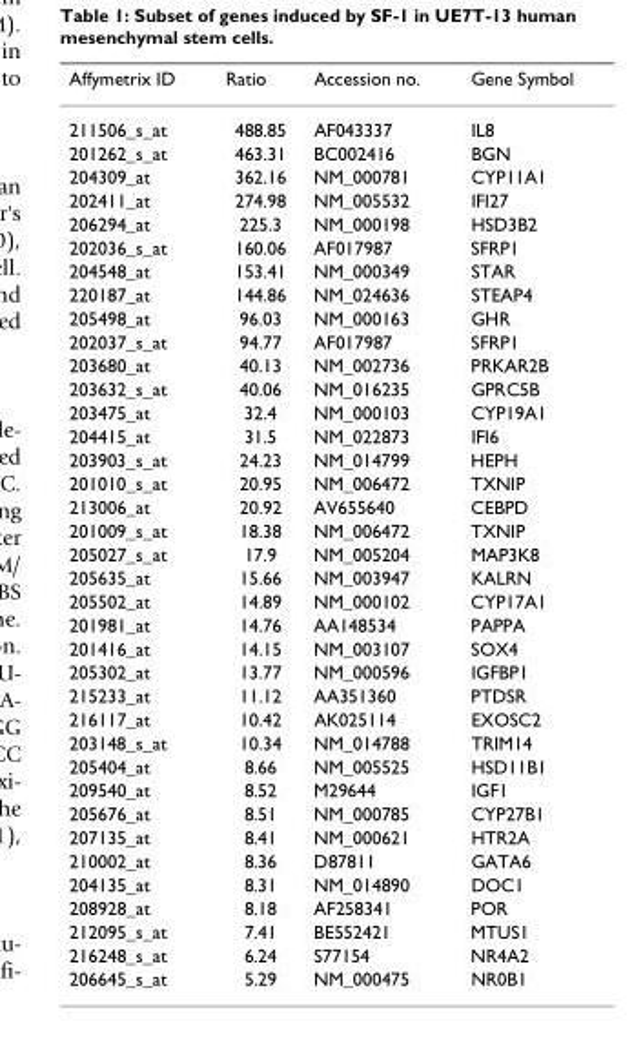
<table><thead><tr><td>Affymetrix ID</td><td>Ratio</td><td>Accession no.</td><td>Gene Symbol</td></tr></thead><tbody><tr><td>211506_s_at</td><td>488.85</td><td>AF043337</td><td>IL8</td></tr><tr><td>201262_s_at</td><td>463.31</td><td>BC002416</td><td>BGN</td></tr><tr><td>204309_at</td><td>362.16</td><td>NM_000781</td><td>CYP11A1</td></tr><tr><td>202411_at</td><td>274.98</td><td>NM_005532</td><td>IFI27</td></tr><tr><td>206294_at</td><td>225.3</td><td>NM_000198</td><td>HSD3B2</td></tr><tr><td>202036_s_at</td><td>160.06</td><td>AF017987</td><td>SFRP1</td></tr><tr><td>204548_at</td><td>153.41</td><td>NM_000349</td><td>STAR</td></tr><tr><td>220187_at</td><td>144.86</td><td>NM_024636</td><td>STEAP4</td></tr><tr><td>205498_at</td><td>96.03</td><td>NM_000163</td><td>GHR</td></tr><tr><td>202037_s_at</td><td>94.77</td><td>AF017987</td><td>SFRP1</td></tr><tr><td>203680_at</td><td>40.13</td><td>NM_002736</td><td>PRKAR2B</td></tr><tr><td>203632_s_at</td><td>40.06</td><td>NM_016235</td><td>GPRC5B</td></tr><tr><td>203475_at</td><td>32.4</td><td>NM_000103</td><td>CYP19A1</td></tr><tr><td>204415_at</td><td>31.5</td><td>NM_022873</td><td>IFI6</td></tr><tr><td>203903_s_at</td><td>24.23</td><td>NM_014799</td><td>HEPH</td></tr><tr><td>201010_s_at</td><td>20.95</td><td>NM_006472</td><td>TXNIP</td></tr><tr><td>213006_at</td><td>20.92</td><td>AV655640</td><td>CEBPD</td></tr><tr><td>201009_s_at</td><td>18.38</td><td>NM_006472</td><td>TXNIP</td></tr><tr><td>205027_s_at</td><td>17.9</td><td>NM_005204</td><td>MAP3K8</td></tr><tr><td>205635_at</td><td>15.66</td><td>NM_003947</td><td>KALRN</td></tr><tr><td>205502_at</td><td>14.89</td><td>NM_000102</td><td>CYP17A1</td></tr><tr><td>201981_at</td><td>14.76</td><td>AA148534</td><td>PAPPA</td></tr><tr><td>201416_at</td><td>14.15</td><td>NM_003107</td><td>SOX4</td></tr><tr><td>205302_at</td><td>13.77</td><td>NM_000596</td><td>IGFBP1</td></tr><tr><td>215233_at</td><td>11.12</td><td>AA351360</td><td>PTDSR</td></tr><tr><td>216117_at</td><td>10.42</td><td>AK025114</td><td>EXOSC2</td></tr><tr><td>203148_s_at</td><td>10.34</td><td>NM_014788</td><td>TRIM14</td></tr><tr><td>205404_at</td><td>8.66</td><td>NM_005525</td><td>HSD11B1</td></tr><tr><td>209540_at</td><td>8.52</td><td>M29644</td><td>IGF1</td></tr><tr><td>205676_at</td><td>8.51</td><td>NM_000785</td><td>CYP27B1</td></tr><tr><td>207135_at</td><td>8.41</td><td>NM_000621</td><td>HTR2A</td></tr><tr><td>210002_at</td><td>8.36</td><td>D87811</td><td>GATA6</td></tr><tr><td>204135_at</td><td>8.31</td><td>NM_014890</td><td>DOC1</td></tr><tr><td>208928_at</td><td>8.18</td><td>AF258341</td><td>POR</td></tr><tr><td>212095_s_at</td><td>7.41</td><td>BE552421</td><td>MTUS1</td></tr><tr><td>216248_s_at</td><td>6.24</td><td>S77154</td><td>NR4A2</td></tr><tr><td>206645_s_at</td><td>5.29</td><td>NM_000475</td><td>NR0B1</td></tr></tbody></table>